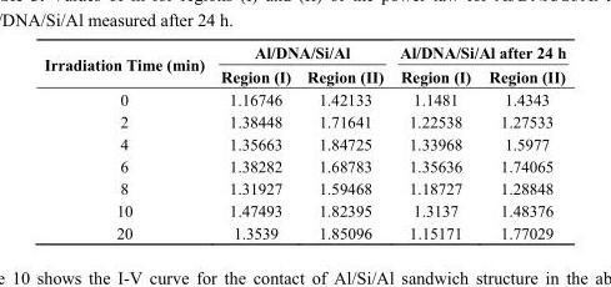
<table><thead><tr><td rowspan="2">Irradiation Time (min)</td><td colspan="2">Al/DNA/Si/Al</td><td colspan="2">Al/DNA/Si/Al after 24 h</td></tr><tr><td>Region (I)</td><td>Region (II)</td><td>Region (I)</td><td>Region (II)</td></tr></thead><tbody><tr><td>0</td><td>1.16746</td><td>1.42133</td><td>1.1481</td><td>1.4343</td></tr><tr><td>2</td><td>1.38448</td><td>1.71641</td><td>1.22538</td><td>1.27533</td></tr><tr><td>4</td><td>1.35663</td><td>1.84725</td><td>1.33968</td><td>1.5977</td></tr><tr><td>6</td><td>1.38282</td><td>1.68783</td><td>1.35636</td><td>1.74065</td></tr><tr><td>8</td><td>1.31927</td><td>1.59468</td><td>1.18727</td><td>1.28848</td></tr><tr><td>10</td><td>1.47493</td><td>1.82395</td><td>1.3137</td><td>1.48376</td></tr><tr><td>20</td><td>1.3539</td><td>1.85096</td><td>1.15171</td><td>1.77029</td></tr></tbody></table>